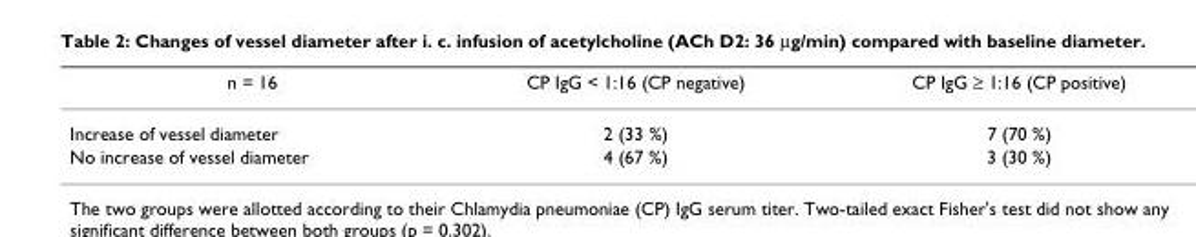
<table><thead><tr><td>n = 16</td><td>CP IgG &lt; 1:16 (CP negative)</td><td>CP IgG ≥ 1:16 (CP positive)</td></tr></thead><tbody><tr><td>Increase of vessel diameter</td><td>2 (33 %)</td><td>7 (70 %)</td></tr><tr><td>No increase of vessel diameter</td><td>4 (67 %)</td><td>3 (30 %)</td></tr></tbody></table>